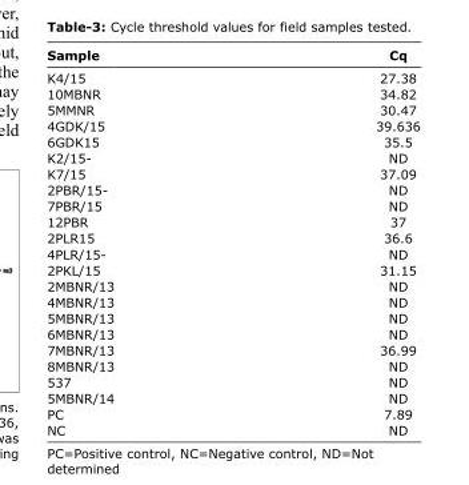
<table><thead><tr><td>Sample</td><td>Cq</td></tr></thead><tbody><tr><td>K4/15</td><td>27.38</td></tr><tr><td>10MBNR</td><td>34.82</td></tr><tr><td>5MMNR</td><td>30.47</td></tr><tr><td>4GDK/15</td><td>39.636</td></tr><tr><td>6GDK15</td><td>35.5</td></tr><tr><td>K2/15-</td><td>ND</td></tr><tr><td>K7/15</td><td>37.09</td></tr><tr><td>2PBR/15-</td><td>ND</td></tr><tr><td>7PBR/15</td><td>ND</td></tr><tr><td>12PBR</td><td>37</td></tr><tr><td>2PLR15</td><td>36.6</td></tr><tr><td>4PLR/15-</td><td>ND</td></tr><tr><td>2PKL/15</td><td>31.15</td></tr><tr><td>2MBNR/13</td><td>ND</td></tr><tr><td>4MBNR/13</td><td>ND</td></tr><tr><td>5MBNR/13</td><td>ND</td></tr><tr><td>6MBNR/13</td><td>ND</td></tr><tr><td>7MBNR/13</td><td>36.99</td></tr><tr><td>8MBNR/13</td><td>ND</td></tr><tr><td>537</td><td>ND</td></tr><tr><td>5MBNR/14</td><td>ND</td></tr><tr><td>PC</td><td>7.89</td></tr><tr><td>NC</td><td>ND</td></tr></tbody></table>